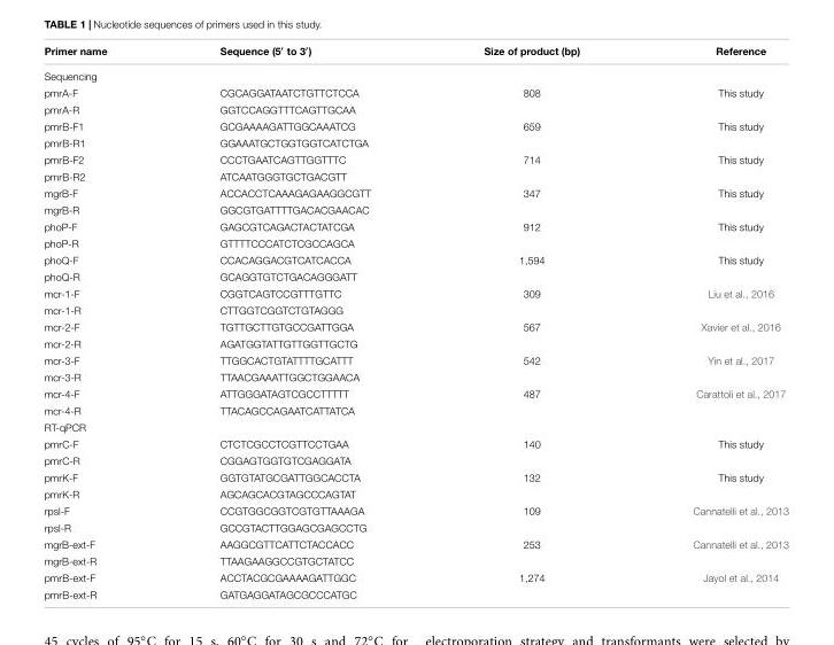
<table><thead><tr><td>Primer name</td><td>Sequence (5′ to 3′)</td><td>Size of product (bp)</td><td>Reference</td></tr></thead><tbody><tr><td colspan="4">Sequencing</td></tr><tr><td>pmrA-F</td><td>CGCAGGATAATCTGTTCTCCA</td><td>808</td><td>This study</td></tr><tr><td>pmrA-R</td><td>GGTCCAGGTTTCAGTTGCAA</td><td></td><td></td></tr><tr><td>pmrB-F1</td><td>GCGAAAAGATTGGCAAATCG</td><td>659</td><td>This study</td></tr><tr><td>pmrB-R1</td><td>GGAAATGCTGGTGGTCATCTGA</td><td></td><td></td></tr><tr><td>pmrB-F2</td><td>CCCTGAATCAGTTGGTTTC</td><td>714</td><td>This study</td></tr><tr><td>pmrB-R2</td><td>ATCAATGGGTGCTGACGTT</td><td></td><td></td></tr><tr><td>mgrB-F</td><td>ACCACCTCAAAGAGAAGGCGTT</td><td>347</td><td>This study</td></tr><tr><td>mgrB-R</td><td>GGCGTGATTTTGACACGAACAC</td><td></td><td></td></tr><tr><td>phoP-F</td><td>GAGCGTCAGACTACTATCGA</td><td>912</td><td>This study</td></tr><tr><td>phoP-R</td><td>GTTTTCCCATCTCGCCAGCA</td><td></td><td></td></tr><tr><td>phoQ-F</td><td>CCACAGGACGTCATCACCA</td><td>1,594</td><td>This study</td></tr><tr><td>phoQ-R</td><td>GCAGGTGTCTGACAGGGATT</td><td></td><td></td></tr><tr><td>mcr-1-F</td><td>CGGTCAGTCCGTTTGTTC</td><td>309</td><td>Liu et al., 2016</td></tr><tr><td>mcr-1-R</td><td>CTTGGTCGGTCTGTAGGG</td><td></td><td></td></tr><tr><td>mcr-2-F</td><td>TGTTGCTTGTGCCGATTGGA</td><td>567</td><td>Xavier et al., 2016</td></tr><tr><td>mcr-2-R</td><td>AGATGGTATTGTTGGTTGCTG</td><td></td><td></td></tr><tr><td>mcr-3-F</td><td>TTGGCACTGTATTTTGCATTT</td><td>542</td><td>Yin et al., 2017</td></tr><tr><td>mcr-3-R</td><td>TTAACGAAATTGGCTGGAACA</td><td></td><td></td></tr><tr><td>mcr-4-F</td><td>ATTGGGATAGTCGCCTTTTT</td><td>487</td><td>Carattoli et al., 2017</td></tr><tr><td>mcr-4-R</td><td>TTACAGCCAGAATCATTATCA</td><td></td><td></td></tr><tr><td colspan="4">RT-qPCR</td></tr><tr><td>pmrC-F</td><td>CTCTCGCCTCGTTCCTGAA</td><td>140</td><td>This study</td></tr><tr><td>pmrC-R</td><td>CGGAGTGGTGTCGAGGATA</td><td></td><td></td></tr><tr><td>pmrK-F</td><td>GGTGTATGCGATTGGCACCTA</td><td>132</td><td>This study</td></tr><tr><td>pmrK-R</td><td>AGCAGCACGTAGCCCAGTAT</td><td></td><td></td></tr><tr><td>rpsl-F</td><td>CCGTGGCGGTCGTGTTAAAGA</td><td>109</td><td>Cannatelli et al., 2013</td></tr><tr><td>rpsl-R</td><td>GCCGTACTTGGAGCGAGCCTG</td><td></td><td></td></tr><tr><td>mgrB-ext-F</td><td>AAGGCGTTCATTCTACCACC</td><td>253</td><td>Cannatelli et al., 2013</td></tr><tr><td>mgrB-ext-R</td><td>TTAAGAAGGCCGTGCTATCC</td><td></td><td></td></tr><tr><td>pmrB-ext-F</td><td>ACCTACGCGAAAAGATTGGC</td><td>1,274</td><td>Jayol et al., 2014</td></tr><tr><td>pmrB-ext-R</td><td>GATGAGGATAGCGCCCATGC</td><td></td><td></td></tr></tbody></table>